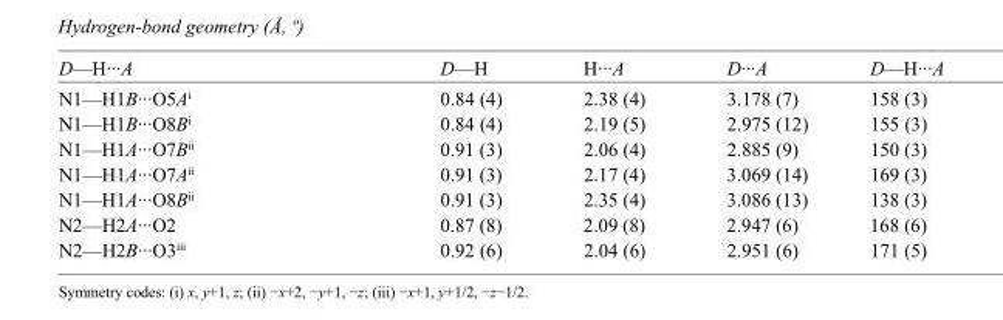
<table><tbody><tr><td>D—H···A</td><td>D—H</td><td>H···A</td><td>D···A</td><td>D—H···A</td></tr><tr><td>N1—H1B···O5A<sup>i</sup></td><td>0.84 (4)</td><td>2.38 (4)</td><td>3.178 (7)</td><td>158 (3)</td></tr><tr><td>N1—H1B···O8B<sup>i</sup></td><td>0.84 (4)</td><td>2.19 (5)</td><td>2.975 (12)</td><td>155 (3)</td></tr><tr><td>N1—H1A···O7B<sup>ii</sup></td><td>0.91 (3)</td><td>2.06 (4)</td><td>2.885 (9)</td><td>150 (3)</td></tr><tr><td>N1—H1A···O7A<sup>ii</sup></td><td>0.91 (3)</td><td>2.17 (4)</td><td>3.069 (14)</td><td>169 (3)</td></tr><tr><td>N1—H1A···O8B<sup>ii</sup></td><td>0.91 (3)</td><td>2.35 (4)</td><td>3.086 (13)</td><td>138 (3)</td></tr><tr><td>N2—H2A···O2</td><td>0.87 (8)</td><td>2.09 (8)</td><td>2.947 (6)</td><td>168 (6)</td></tr><tr><td>N2—H2B···O3<sup>iii</sup></td><td>0.92 (6)</td><td>2.04 (6)</td><td>2.951 (6)</td><td>171 (5)</td></tr></tbody></table>